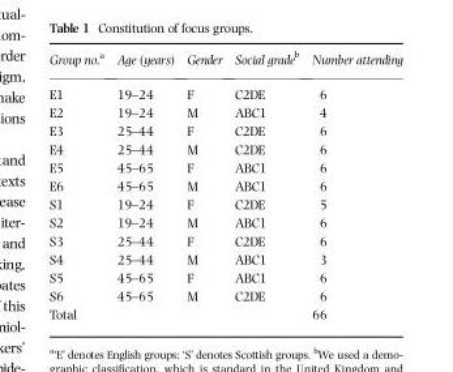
<table><thead><tr><td>Group no.<sup>a</sup></td><td>Age (years)</td><td>Gender</td><td>Social gradeb</td><td>Number attending</td></tr></thead><tbody><tr><td>E1</td><td>19–24</td><td>F</td><td>C2DE</td><td>6</td></tr><tr><td>E2</td><td>19–24</td><td>M</td><td>ABC1</td><td>4</td></tr><tr><td>E3</td><td>25–44</td><td>F</td><td>C2DE</td><td>6</td></tr><tr><td>E4</td><td>25–44</td><td>M</td><td>C2DE</td><td>6</td></tr><tr><td>E5</td><td>45–65</td><td>F</td><td>ABC1</td><td>6</td></tr><tr><td>E6</td><td>45–65</td><td>M</td><td>ABC1</td><td>6</td></tr><tr><td>S1</td><td>19–24</td><td>F</td><td>C2DE</td><td>5</td></tr><tr><td>S2</td><td>19–24</td><td>M</td><td>ABC1</td><td>6</td></tr><tr><td>S3</td><td>25–44</td><td>F</td><td>C2DE</td><td>6</td></tr><tr><td>S4</td><td>25–44</td><td>M</td><td>ABC1</td><td>3</td></tr><tr><td>S5</td><td>45–65</td><td>F</td><td>ABC1</td><td>6</td></tr><tr><td>S6</td><td>45–65</td><td>M</td><td>C2DE</td><td>6</td></tr><tr><td>Total</td><td></td><td></td><td></td><td>66</td></tr></tbody></table>